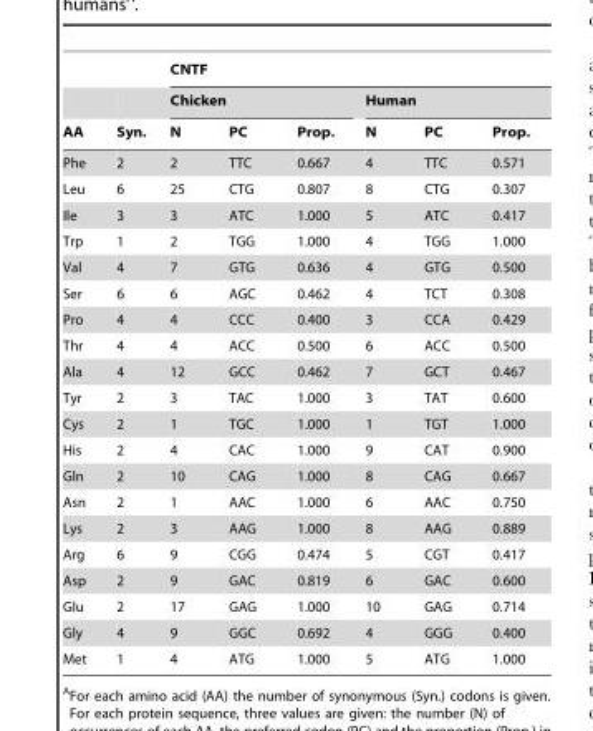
<table><thead><tr><td rowspan="3">AA</td><td rowspan="3">Syn.</td><td colspan="6">CNTF</td></tr><tr><td colspan="3">Chicken</td><td colspan="3">Human</td></tr><tr><td>N</td><td>PC</td><td>Prop.</td><td>N</td><td>PC</td><td>Prop.</td></tr></thead><tbody><tr><td>Phe</td><td>2</td><td>2</td><td>TTC</td><td>0.667</td><td>4</td><td>TTC</td><td>0.571</td></tr><tr><td>Leu</td><td>6</td><td>25</td><td>CTG</td><td>0.807</td><td>8</td><td>CTG</td><td>0.307</td></tr><tr><td>Ile</td><td>3</td><td>3</td><td>ATC</td><td>1.000</td><td>5</td><td>ATC</td><td>0.417</td></tr><tr><td>Trp</td><td>1</td><td>2</td><td>TGG</td><td>1.000</td><td>4</td><td>TGG</td><td>1.000</td></tr><tr><td>Val</td><td>4</td><td>7</td><td>GTG</td><td>0.636</td><td>4</td><td>GTG</td><td>0.500</td></tr><tr><td>Ser</td><td>6</td><td>6</td><td>AGC</td><td>0.462</td><td>4</td><td>TCT</td><td>0.308</td></tr><tr><td>Pro</td><td>4</td><td>4</td><td>CCC</td><td>0.400</td><td>3</td><td>CCA</td><td>0.429</td></tr><tr><td>Thr</td><td>4</td><td>4</td><td>ACC</td><td>0.500</td><td>6</td><td>ACC</td><td>0.500</td></tr><tr><td>Ala</td><td>4</td><td>12</td><td>GCC</td><td>0.462</td><td>7</td><td>GCT</td><td>0.467</td></tr><tr><td>Tyr</td><td>2</td><td>3</td><td>TAC</td><td>1.000</td><td>3</td><td>TAT</td><td>0.600</td></tr><tr><td>Cys</td><td>2</td><td>1</td><td>TGC</td><td>1.000</td><td>1</td><td>TGT</td><td>1.000</td></tr><tr><td>His</td><td>2</td><td>4</td><td>CAC</td><td>1.000</td><td>9</td><td>CAT</td><td>0.900</td></tr><tr><td>Gln</td><td>2</td><td>10</td><td>CAG</td><td>1.000</td><td>8</td><td>CAG</td><td>0.667</td></tr><tr><td>Asn</td><td>2</td><td>1</td><td>AAC</td><td>1.000</td><td>6</td><td>AAC</td><td>0.750</td></tr><tr><td>Lys</td><td>2</td><td>3</td><td>AAG</td><td>1.000</td><td>8</td><td>AAG</td><td>0.889</td></tr><tr><td>Arg</td><td>6</td><td>9</td><td>CGG</td><td>0.474</td><td>5</td><td>CGT</td><td>0.417</td></tr><tr><td>Asp</td><td>2</td><td>9</td><td>GAC</td><td>0.819</td><td>6</td><td>GAC</td><td>0.600</td></tr><tr><td>Glu</td><td>2</td><td>17</td><td>GAG</td><td>1.000</td><td>10</td><td>GAG</td><td>0.714</td></tr><tr><td>Gly</td><td>4</td><td>9</td><td>GGC</td><td>0.692</td><td>4</td><td>GGG</td><td>0.400</td></tr><tr><td>Met</td><td>1</td><td>4</td><td>ATG</td><td>1.000</td><td>5</td><td>ATG</td><td>1.000</td></tr></tbody></table>